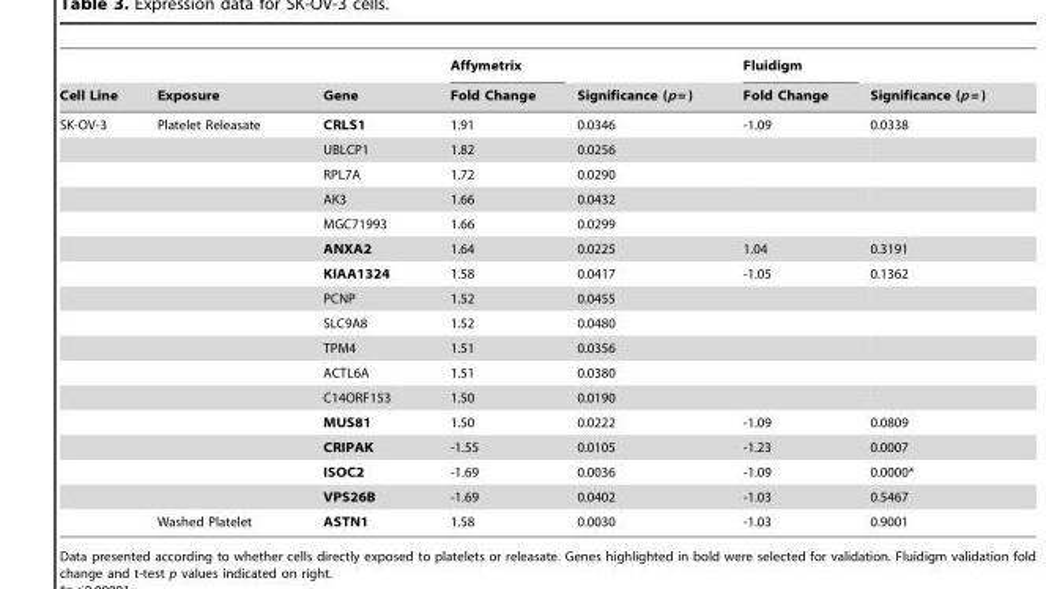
<table><thead><tr><td rowspan="2">Cell Line</td><td rowspan="2">Exposure</td><td rowspan="2">Gene</td><td rowspan="2">Affymetrix Fold Change</td><td rowspan="2">Significance (p = )</td><td rowspan="2">Fluidigm Fold Change</td><td rowspan="2">Significance (p = )</td></tr><tr></tr></thead><tbody><tr><td rowspan="17">SK-OV-3</td><td>Platelet Releasate</td><td>CRLS1</td><td>1.91</td><td>0.0346</td><td>-1.09</td><td>0.0338</td></tr><tr><td></td><td>UBLCP1</td><td>1.82</td><td>0.0256</td><td></td><td></td></tr><tr><td></td><td>RPL7A</td><td>1.72</td><td>0.0290</td><td></td><td></td></tr><tr><td></td><td>AK3</td><td>1.66</td><td>0.0432</td><td></td><td></td></tr><tr><td></td><td>MGC71993</td><td>1.66</td><td>0.0299</td><td></td><td></td></tr><tr><td></td><td>ANXA2</td><td>1.64</td><td>0.0225</td><td>1.04</td><td>0.3191</td></tr><tr><td></td><td>KIAA1324</td><td>1.58</td><td>0.0417</td><td>-1.05</td><td>0.1362</td></tr><tr><td></td><td>PCNP</td><td>1.52</td><td>0.0455</td><td></td><td></td></tr><tr><td></td><td>SLC9A8</td><td>1.52</td><td>0.0480</td><td></td><td></td></tr><tr><td></td><td>TPM4</td><td>1.51</td><td>0.0356</td><td></td><td></td></tr><tr><td></td><td>ACTL6A</td><td>1.51</td><td>0.0380</td><td></td><td></td></tr><tr><td></td><td>C14ORF153</td><td>1.50</td><td>0.0190</td><td></td><td></td></tr><tr><td></td><td>MUS81</td><td>1.50</td><td>0.0222</td><td>-1.09</td><td>0.0809</td></tr><tr><td></td><td>CRIPAK</td><td>-1.55</td><td>0.0105</td><td>-1.23</td><td>0.0007</td></tr><tr><td></td><td>ISOC2</td><td>-1.69</td><td>0.0036</td><td>-1.09</td><td>0.0000*</td></tr><tr><td></td><td>VPS26B</td><td>-1.69</td><td>0.0402</td><td>-1.03</td><td>0.5467</td></tr><tr><td>Washed Platelet</td><td>ASTN1</td><td>1.58</td><td>0.0030</td><td>-1.03</td><td>0.9001</td></tr></tbody></table>